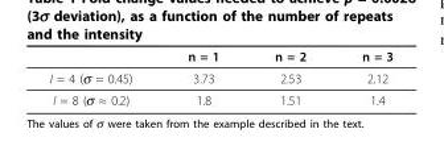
<table><thead><tr><td></td><td>n = 1</td><td>n = 2</td><td>n = 3</td></tr></thead><tbody><tr><td>I = 4 (σ ≈ 0.45)</td><td>3.73</td><td>2.53</td><td>2.12</td></tr><tr><td>I = 8 (σ ≈ 0.2)</td><td>1.8</td><td>1.51</td><td>1.4</td></tr></tbody></table>